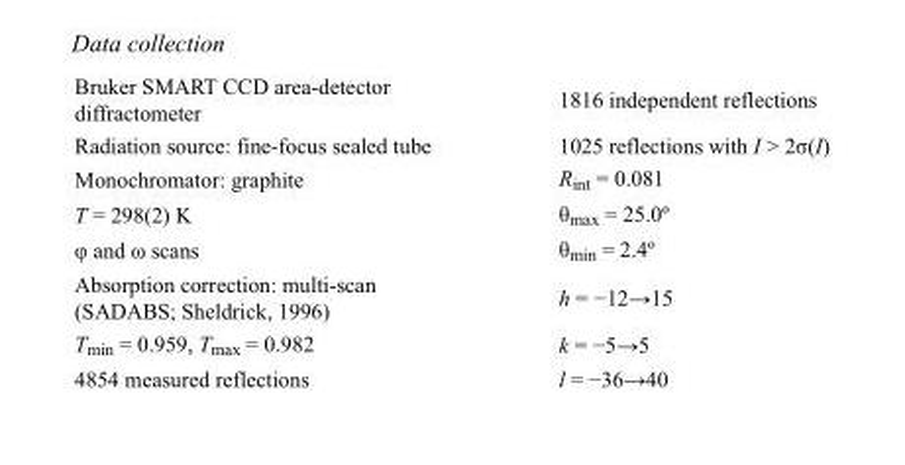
<table><tbody><tr><td>Bruker SMART CCD area-detector diffractometer</td><td>1816 independent reflections</td></tr><tr><td>Radiation source: fine-focus sealed tube</td><td>1025 reflections with I &gt; 2σ(I)</td></tr><tr><td>Monochromator: graphite</td><td>R<sub>int</sub> = 0.081</td></tr><tr><td>T = 298(2) K</td><td>θ<sub>max</sub> = 25.0º</td></tr><tr><td>φ and ω scans</td><td>θ<sub>min</sub> = 2.4º</td></tr><tr><td>Absorption correction: multi-scan (SADABS; Sheldrick, 1996)</td><td>h = −12→15</td></tr><tr><td>T<sub>min</sub> = 0.959, T<sub>max</sub> = 0.982</td><td>k = −5→5</td></tr><tr><td>4854 measured reflections</td><td>l = −36→40</td></tr></tbody></table>